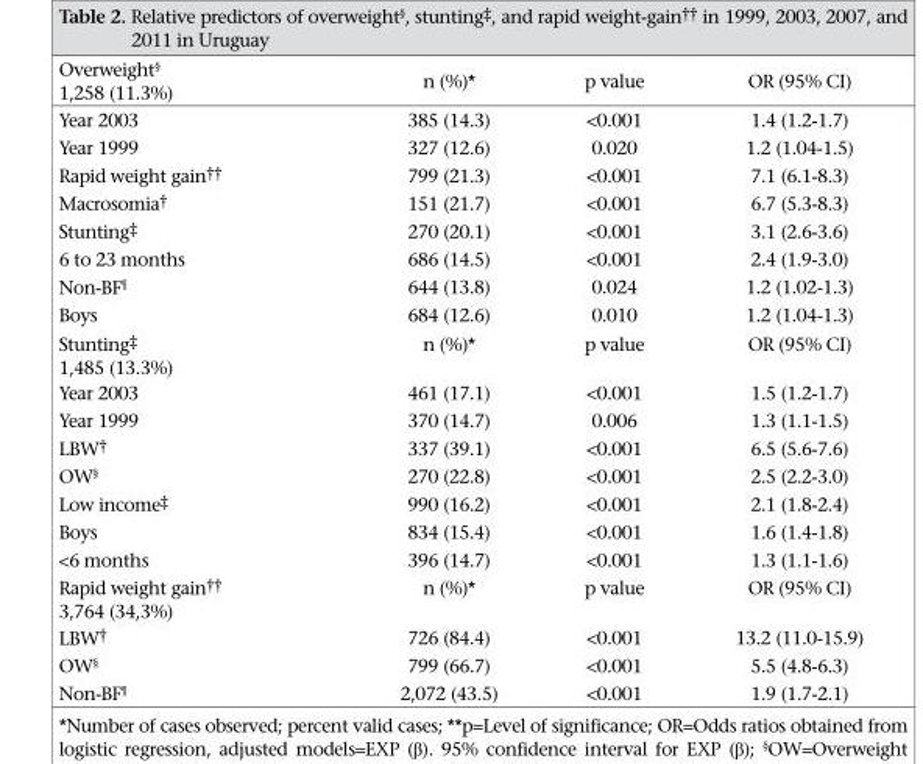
<table><thead><tr><td>Overweight§ 1,258 (11.3%)</td><td>n (%)*</td><td>p value</td><td>OR (95% CI)</td></tr></thead><tbody><tr><td>Year 2003</td><td>385 (14.3)</td><td>&lt;0.001</td><td>1.4 (1.2-1.7)</td></tr><tr><td>Year 1999</td><td>327 (12.6)</td><td>0.020</td><td>1.2 (1.04-1.5)</td></tr><tr><td>Rapid weight gain††</td><td>799 (21.3)</td><td>&lt;0.001</td><td>7.1 (6.1-8.3)</td></tr><tr><td>Macrosomia†</td><td>151 (21.7)</td><td>&lt;0.001</td><td>6.7 (5.3-8.3)</td></tr><tr><td>Stunting‡</td><td>270 (20.1)</td><td>&lt;0.001</td><td>3.1 (2.6-3.6)</td></tr><tr><td>6 to 23 months</td><td>686 (14.5)</td><td>&lt;0.001</td><td>2.4 (1.9-3.0)</td></tr><tr><td>Non-BF¶</td><td>644 (13.8)</td><td>0.024</td><td>1.2 (1.02-1.3)</td></tr><tr><td>Boys</td><td>684 (12.6)</td><td>0.010</td><td>1.2 (1.04-1.3)</td></tr><tr><td>Stunting‡ 1,485 (13.3%)</td><td>n (%)*</td><td>p value</td><td>OR (95% CI)</td></tr><tr><td>Year 2003</td><td>461 (17.1)</td><td>&lt;0.001</td><td>1.5 (1.2-1.7)</td></tr><tr><td>Year 1999</td><td>370 (14.7)</td><td>0.006</td><td>1.3 (1.1-1.5)</td></tr><tr><td>LBW†</td><td>337 (39.1)</td><td>&lt;0.001</td><td>6.5 (5.6-7.6)</td></tr><tr><td>OW§</td><td>270 (22.8)</td><td>&lt;0.001</td><td>2.5 (2.2-3.0)</td></tr><tr><td>Low income‡</td><td>990 (16.2)</td><td>&lt;0.001</td><td>2.1 (1.8-2.4)</td></tr><tr><td>Boys</td><td>834 (15.4)</td><td>&lt;0.001</td><td>1.6 (1.4-1.8)</td></tr><tr><td>&lt;6 months</td><td>396 (14.7)</td><td>&lt;0.001</td><td>1.3 (1.1-1.6)</td></tr><tr><td>Rapid weight gain†† 3,764 (34,3%)</td><td>n (%)*</td><td>p value</td><td>OR (95% CI)</td></tr><tr><td>LBW†</td><td>726 (84.4)</td><td>&lt;0.001</td><td>13.2 (11.0-15.9)</td></tr><tr><td>OW§</td><td>799 (66.7)</td><td>&lt;0.001</td><td>5.5 (4.8-6.3)</td></tr><tr><td>Non-BF¶</td><td>2,072 (43.5)</td><td>&lt;0.001</td><td>1.9 (1.7-2.1)</td></tr></tbody></table>